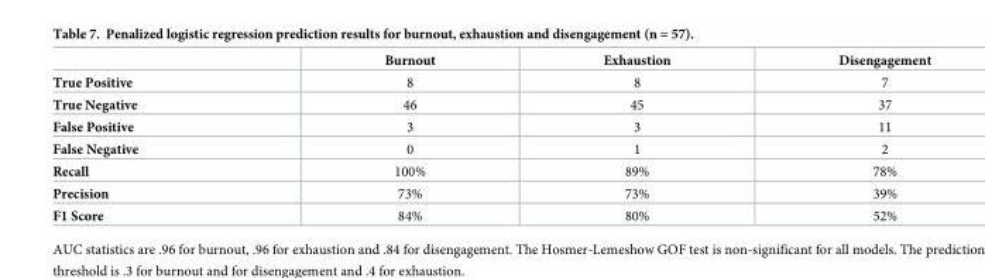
<table><thead><tr><td></td><td>Burnout</td><td>Exhaustion</td><td>Disengagement</td></tr></thead><tbody><tr><td>True Positive</td><td>8</td><td>8</td><td>7</td></tr><tr><td>True Negative</td><td>46</td><td>45</td><td>37</td></tr><tr><td>False Positive</td><td>3</td><td>3</td><td>11</td></tr><tr><td>False Negative</td><td>0</td><td>1</td><td>2</td></tr><tr><td>Recall</td><td>100%</td><td>89%</td><td>78%</td></tr><tr><td>Precision</td><td>73%</td><td>73%</td><td>39%</td></tr><tr><td>F1 Score</td><td>84%</td><td>80%</td><td>52%</td></tr></tbody></table>